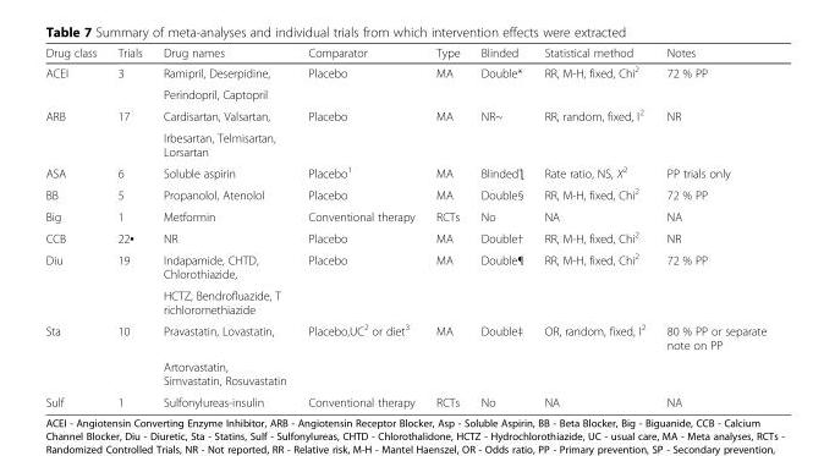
<table><thead><tr><td>Drug class</td><td>Trials</td><td>Drug names</td><td>Comparator</td><td>Type</td><td>Blinded</td><td>Statistical method</td><td>Notes</td></tr></thead><tbody><tr><td rowspan="2">ACEI</td><td>3</td><td>Ramipril, Deserpidine,</td><td>Placebo</td><td>MA</td><td>Double*</td><td>RR, M-H, fixed, Chi<sup>2</sup></td><td>72 % PP</td></tr><tr><td></td><td>Perindopril, Captopril</td><td></td><td></td><td></td><td></td><td></td></tr><tr><td rowspan="2">ARB</td><td>17</td><td>Cardisartan, Valsartan,</td><td>Placebo</td><td>MA</td><td>NR~</td><td>RR, random, fixed, I<sup>2</sup></td><td>NR</td></tr><tr><td></td><td>Irbesartan, Telmisartan, Lorsartan</td><td></td><td></td><td></td><td></td><td></td></tr><tr><td>ASA</td><td>6</td><td>Soluble aspirin</td><td>Placebo<sup>1</sup></td><td>MA</td><td>Blindedƪ</td><td>Rate ratio, NS, X<sup>2</sup></td><td>PP trials only</td></tr><tr><td>BB</td><td>5</td><td>Propanolol, Atenolol</td><td>Placebo</td><td>MA</td><td>Double§</td><td>RR, M-H, fixed, Chi<sup>2</sup></td><td>72 % PP</td></tr><tr><td>Big</td><td>1</td><td>Metformin</td><td>Conventional therapy</td><td>RCTs</td><td>No</td><td>NA</td><td>NA</td></tr><tr><td>CCB</td><td>22▪</td><td>NR</td><td>Placebo</td><td>MA</td><td>Double†</td><td>RR, M-H, fixed, Chi<sup>2</sup></td><td>NR</td></tr><tr><td rowspan="2">Diu</td><td>19</td><td>Indapamide, CHTD, Chlorothiazide,</td><td>Placebo</td><td>MA</td><td>Double¶</td><td>RR, M-H, fixed, Chi<sup>2</sup></td><td>72 % PP</td></tr><tr><td></td><td>HCTZ, Bendrofluazide, T richloromethiazide</td><td></td><td></td><td></td><td></td><td></td></tr><tr><td rowspan="2">Sta</td><td>10</td><td>Pravastatin, Lovastatin,</td><td>Placebo,UC<sup>2</sup> or diet<sup>3</sup></td><td>MA</td><td>Double‡</td><td>OR, random, fixed, I<sup>2</sup></td><td>80 % PP or separate note on PP</td></tr><tr><td></td><td>Artorvastatin, Simvastatin, Rosuvastatin</td><td></td><td></td><td></td><td></td><td></td></tr><tr><td>Sulf</td><td>1</td><td>Sulfonylureas-insulin</td><td>Conventional therapy</td><td>RCTs</td><td>No</td><td>NA</td><td>NA</td></tr></tbody></table>